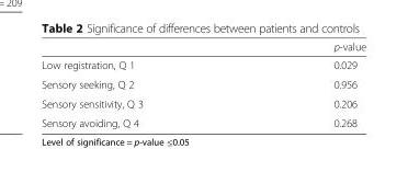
<table><thead><tr><td></td><td>p-value</td></tr></thead><tbody><tr><td>Low registration, Q 1</td><td>0.029</td></tr><tr><td>Sensory seeking, Q 2</td><td>0.956</td></tr><tr><td>Sensory sensitivity, Q 3</td><td>0.206</td></tr><tr><td>Sensory avoiding, Q 4</td><td>0.268</td></tr></tbody></table>